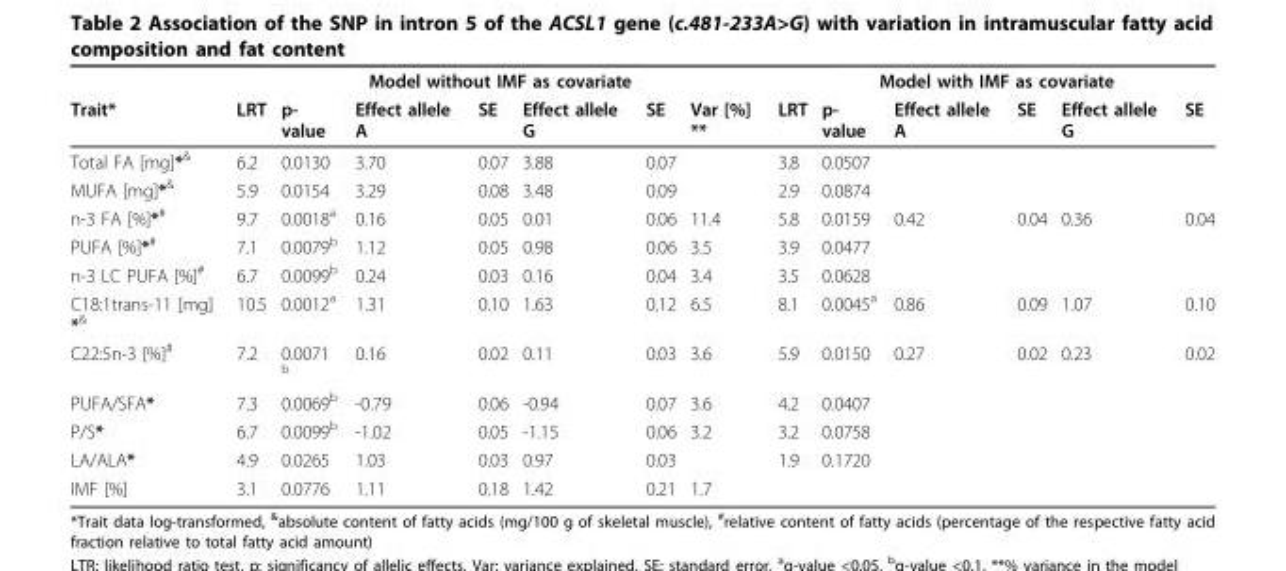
<table><thead><tr><td rowspan="2">Trait*</td><td colspan="7">Model without IMF as covariate</td><td colspan="6">Model with IMF as covariate</td></tr><tr><td>LRT</td><td>p- value</td><td>Effect allele A</td><td>SE</td><td>Effect allele G</td><td>SE</td><td>Var [%] **</td><td>LRT</td><td>p- value</td><td>Effect allele A</td><td>SE</td><td>Effect allele G</td><td>SE</td></tr></thead><tbody><tr><td>Total FA [mg]*<sup>&amp;</sup></td><td>6.2</td><td>0.0130</td><td>3.70</td><td>0.07</td><td>3.88</td><td>0.07</td><td></td><td>3.8</td><td>0.0507</td><td></td><td></td><td></td><td></td></tr><tr><td>MUFA [mg]*<sup>&amp;</sup></td><td>5.9</td><td>0.0154</td><td>3.29</td><td>0.08</td><td>3.48</td><td>0.09</td><td></td><td>2.9</td><td>0.0874</td><td></td><td></td><td></td><td></td></tr><tr><td>n-3 FA [%]*<sup>#</sup></td><td>9.7</td><td>0.0018<sup>a</sup></td><td>0.16</td><td>0.05</td><td>0.01</td><td>0.06</td><td>11.4</td><td>5.8</td><td>0.0159</td><td>0.42</td><td>0.04</td><td>0.36</td><td>0.04</td></tr><tr><td>PUFA [%]*<sup>#</sup></td><td>7.1</td><td>0.0079<sup>b</sup></td><td>1.12</td><td>0.05</td><td>0.98</td><td>0.06</td><td>3.5</td><td>3.9</td><td>0.0477</td><td></td><td></td><td></td><td></td></tr><tr><td>n-3 LC PUFA [%]<sup>#</sup></td><td>6.7</td><td>0.0099<sup>b</sup></td><td>0.24</td><td>0.03</td><td>0.16</td><td>0.04</td><td>3.4</td><td>3.5</td><td>0.0628</td><td></td><td></td><td></td><td></td></tr><tr><td>C18:1trans-11 [mg] *<sup>&amp;</sup></td><td>10.5</td><td>0.0012<sup>a</sup></td><td>1.31</td><td>0.10</td><td>1.63</td><td>0.12</td><td>6.5</td><td>8.1</td><td>0.0045<sup>a</sup></td><td>0.86</td><td>0.09</td><td>1.07</td><td>0.10</td></tr><tr><td>C22:5n-3 [%]<sup>#</sup></td><td>7.2</td><td>0.0071 <sup>b</sup></td><td>0.16</td><td>0.02</td><td>0.11</td><td>0.03</td><td>3.6</td><td>5.9</td><td>0.0150</td><td>0.27</td><td>0.02</td><td>0.23</td><td>0.02</td></tr><tr><td>PUFA/SFA*</td><td>7.3</td><td>0.0069<sup>b</sup></td><td>-0.79</td><td>0.06</td><td>-0.94</td><td>0.07</td><td>3.6</td><td>4.2</td><td>0.0407</td><td></td><td></td><td></td><td></td></tr><tr><td>P/S*</td><td>6.7</td><td>0.0099<sup>b</sup></td><td>-1.02</td><td>0.05</td><td>-1.15</td><td>0.06</td><td>3.2</td><td>3.2</td><td>0.0758</td><td></td><td></td><td></td><td></td></tr><tr><td>LA/ALA*</td><td>4.9</td><td>0.0265</td><td>1.03</td><td>0.03</td><td>0.97</td><td>0.03</td><td></td><td>1.9</td><td>0.1720</td><td></td><td></td><td></td><td></td></tr><tr><td>IMF [%]</td><td>3.1</td><td>0.0776</td><td>1.11</td><td>0.18</td><td>1.42</td><td>0.21</td><td>1.7</td><td></td><td></td><td></td><td></td><td></td><td></td></tr></tbody></table>